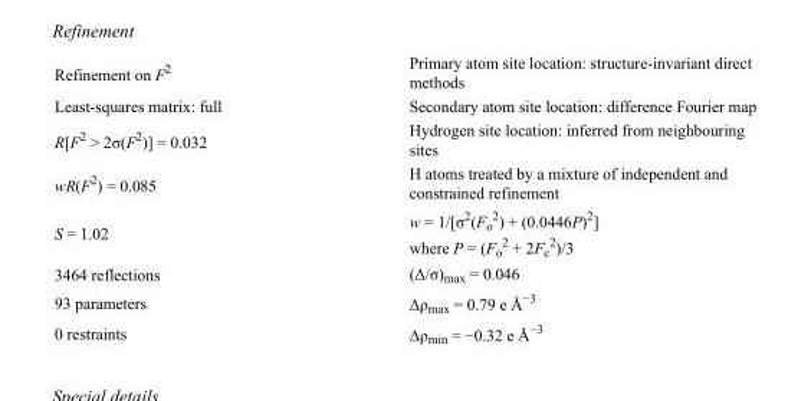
<table><tbody><tr><td>Refinement on F<sup>2</sup></td><td>Primary atom site location: structure-invariant direct methods</td></tr><tr><td>Least-squares matrix: full</td><td>Secondary atom site location: difference Fourier map</td></tr><tr><td>R[F<sup>2</sup> &gt; 2σ(F<sup>2</sup>)] = 0.032</td><td>Hydrogen site location: inferred from neighbouring sites</td></tr><tr><td>wR(F<sup>2</sup>) = 0.085</td><td>H atoms treated by a mixture of independent and constrained refinement</td></tr><tr><td>S = 1.02</td><td>w = 1/[σ<sup>2</sup>(F<sub>o</sub> <sup>2</sup>) + (0.0446P)<sup>2</sup>] where P = (F<sub>o</sub> <sup>2</sup> + 2F<sub>c</sub> <sup>2</sup>)/3</td></tr><tr><td>3464 reflections</td><td>(Δ/σ)<sub>max</sub> = 0.046</td></tr><tr><td>93 parameters</td><td>Δρ<sub>max</sub> = 0.79 e Å<sup>−3</sup></td></tr><tr><td>0 restraints</td><td>Δρ<sub>min</sub> = −0.32 e Å<sup>−3</sup></td></tr></tbody></table>